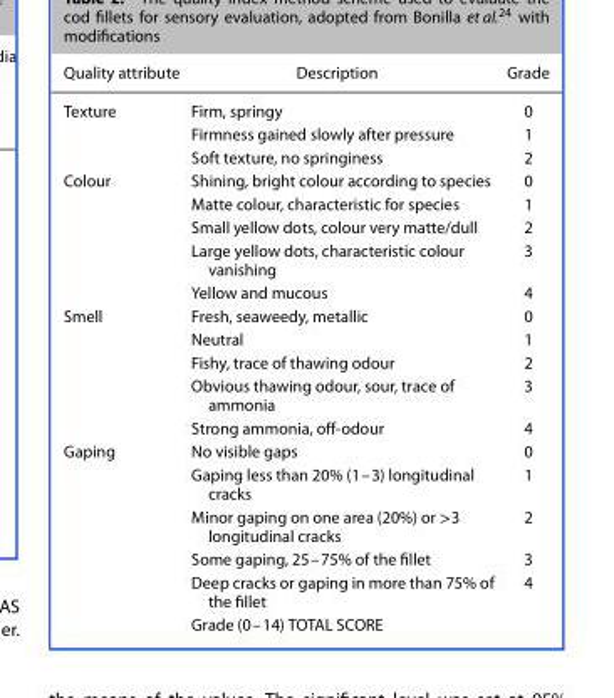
<table><thead><tr><td>Quality attribute</td><td>Description</td><td>Grade</td></tr></thead><tbody><tr><td rowspan="3">Texture</td><td>Firm, springy</td><td>0</td></tr><tr><td>Firmness gained slowly after pressure</td><td>1</td></tr><tr><td>Soft texture, no springiness</td><td>2</td></tr><tr><td rowspan="5">Colour</td><td>Shining, bright colour according to species</td><td>0</td></tr><tr><td>Matte colour, characteristic for species</td><td>1</td></tr><tr><td>Small yellow dots, colour very matte/dull</td><td>2</td></tr><tr><td>Large yellow dots, characteristic colour vanishing</td><td>3</td></tr><tr><td>Yellow and mucous</td><td>4</td></tr><tr><td rowspan="5">Smell</td><td>Fresh, seaweedy, metallic</td><td>0</td></tr><tr><td>Neutral</td><td>1</td></tr><tr><td>Fishy, trace of thawing odour</td><td>2</td></tr><tr><td>Obvious thawing odour, sour, trace of ammonia</td><td>3</td></tr><tr><td>Strong ammonia, off-odour</td><td>4</td></tr><tr><td rowspan="6">Gaping</td><td>No visible gaps</td><td>0</td></tr><tr><td>Gaping less than 20% (1–3) longitudinal cracks</td><td>1</td></tr><tr><td>Minor gaping on one area (20%) or &gt;3 longitudinal cracks</td><td>2</td></tr><tr><td>Some gaping, 25–75% of the fillet</td><td>3</td></tr><tr><td>Deep cracks or gaping in more than 75% of the fillet</td><td>4</td></tr><tr><td>Grade (0–14) TOTAL SCORE</td><td></td></tr></tbody></table>